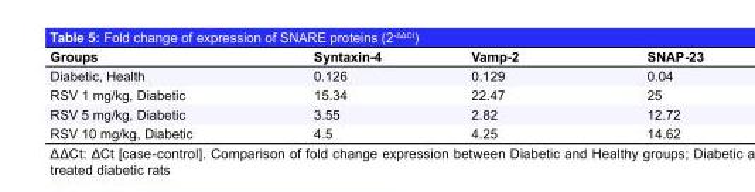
<table><thead><tr><td>Groups</td><td>Syntaxin-4</td><td>Vamp-2</td><td>SNAP-23</td></tr></thead><tbody><tr><td>Diabetic, Health</td><td>0.126</td><td>0.129</td><td>0.04</td></tr><tr><td>RSV 1 mg/kg, Diabetic</td><td>15.34</td><td>22.47</td><td>25</td></tr><tr><td>RSV 5 mg/kg, Diabetic</td><td>3.55</td><td>2.82</td><td>12.72</td></tr><tr><td>RSV 10 mg/kg, Diabetic</td><td>4.5</td><td>4.25</td><td>14.62</td></tr></tbody></table>